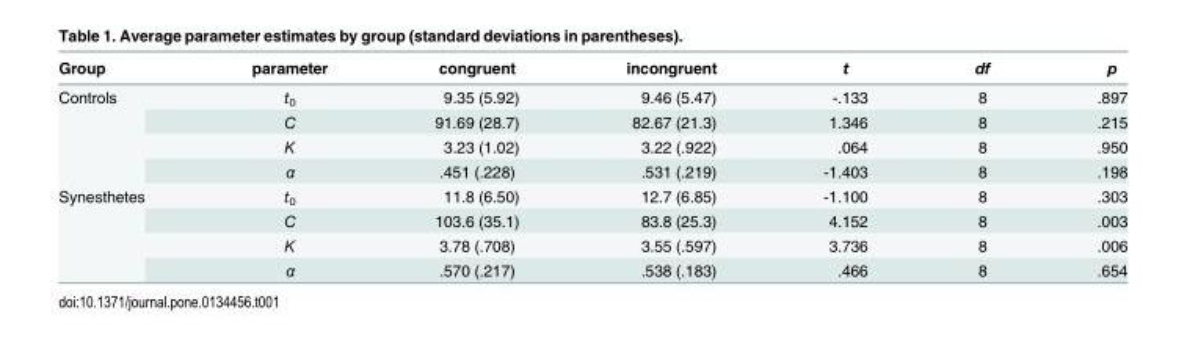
<table><thead><tr><td>Group</td><td>parameter</td><td>congruent</td><td>incongruent</td><td>t</td><td>df</td><td>p</td></tr></thead><tbody><tr><td rowspan="4">Controls</td><td>t<sub>0</sub></td><td>9.35 (5.92)</td><td>9.46 (5.47)</td><td>-.133</td><td>8</td><td>.897</td></tr><tr><td>C</td><td>91.69 (28.7)</td><td>82.67 (21.3)</td><td>1.346</td><td>8</td><td>.215</td></tr><tr><td>K</td><td>3.23 (1.02)</td><td>3.22 (.922)</td><td>.064</td><td>8</td><td>.950</td></tr><tr><td>α</td><td>.451 (.228)</td><td>.531 (.219)</td><td>-1.403</td><td>8</td><td>.198</td></tr><tr><td rowspan="4">Synesthetes</td><td>t<sub>0</sub></td><td>11.8 (6.50)</td><td>12.7 (6.85)</td><td>-1.100</td><td>8</td><td>.303</td></tr><tr><td>C</td><td>103.6 (35.1)</td><td>83.8 (25.3)</td><td>4.152</td><td>8</td><td>.003</td></tr><tr><td>K</td><td>3.78 (.708)</td><td>3.55 (.597)</td><td>3.736</td><td>8</td><td>.006</td></tr><tr><td>α</td><td>.570 (.217)</td><td>.538 (.183)</td><td>.466</td><td>8</td><td>.654</td></tr></tbody></table>